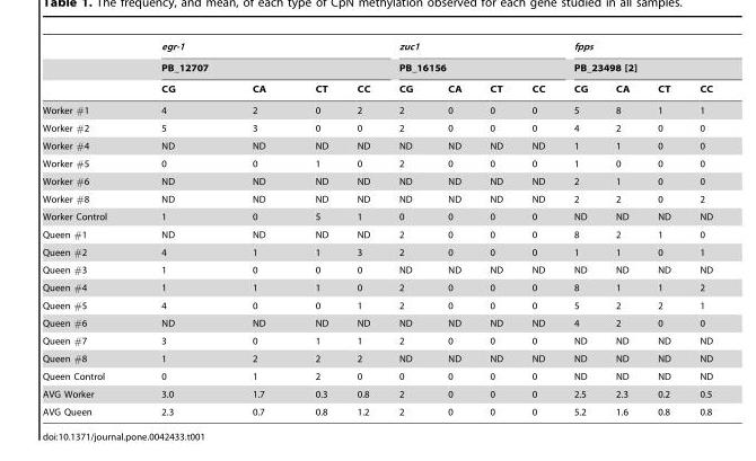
<table><thead><tr><td rowspan="3"></td><td rowspan="2" colspan="4">egr-1 PB_12707</td><td rowspan="2" colspan="4">zuc1 PB_16156</td><td rowspan="2" colspan="4">fpps PB_23498 [2]</td></tr><tr></tr><tr><td>CG</td><td>CA</td><td>CT</td><td>CC</td><td>CG</td><td>CA</td><td>CT</td><td>CC</td><td>CG</td><td>CA</td><td>CT</td><td>CC</td></tr></thead><tbody><tr><td>Worker #1</td><td>4</td><td>2</td><td>0</td><td>2</td><td>2</td><td>0</td><td>0</td><td>0</td><td>5</td><td>8</td><td>1</td><td>1</td></tr><tr><td>Worker #2</td><td>5</td><td>3</td><td>0</td><td>0</td><td>2</td><td>0</td><td>0</td><td>0</td><td>4</td><td>2</td><td>0</td><td>0</td></tr><tr><td>Worker #4</td><td>ND</td><td>ND</td><td>ND</td><td>ND</td><td>ND</td><td>ND</td><td>ND</td><td>ND</td><td>1</td><td>1</td><td>0</td><td>0</td></tr><tr><td>Worker #5</td><td>0</td><td>0</td><td>1</td><td>0</td><td>2</td><td>0</td><td>0</td><td>0</td><td>1</td><td>0</td><td>0</td><td>0</td></tr><tr><td>Worker #6</td><td>ND</td><td>ND</td><td>ND</td><td>ND</td><td>ND</td><td>ND</td><td>ND</td><td>ND</td><td>2</td><td>1</td><td>0</td><td>0</td></tr><tr><td>Worker #8</td><td>ND</td><td>ND</td><td>ND</td><td>ND</td><td>ND</td><td>ND</td><td>ND</td><td>ND</td><td>2</td><td>2</td><td>0</td><td>2</td></tr><tr><td>Worker Control</td><td>1</td><td>0</td><td>5</td><td>1</td><td>0</td><td>0</td><td>0</td><td>0</td><td>ND</td><td>ND</td><td>ND</td><td>ND</td></tr><tr><td>Queen #1</td><td>ND</td><td>ND</td><td>ND</td><td>ND</td><td>2</td><td>0</td><td>0</td><td>0</td><td>8</td><td>2</td><td>1</td><td>0</td></tr><tr><td>Queen #2</td><td>4</td><td>1</td><td>1</td><td>3</td><td>2</td><td>0</td><td>0</td><td>0</td><td>1</td><td>1</td><td>0</td><td>1</td></tr><tr><td>Queen #3</td><td>1</td><td>0</td><td>0</td><td>0</td><td>ND</td><td>ND</td><td>ND</td><td>ND</td><td>ND</td><td>ND</td><td>ND</td><td>ND</td></tr><tr><td>Queen #4</td><td>1</td><td>1</td><td>1</td><td>0</td><td>2</td><td>0</td><td>0</td><td>0</td><td>8</td><td>1</td><td>1</td><td>2</td></tr><tr><td>Queen #5</td><td>4</td><td>0</td><td>0</td><td>1</td><td>2</td><td>0</td><td>0</td><td>0</td><td>5</td><td>2</td><td>2</td><td>1</td></tr><tr><td>Queen #6</td><td>ND</td><td>ND</td><td>ND</td><td>ND</td><td>ND</td><td>ND</td><td>ND</td><td>ND</td><td>4</td><td>2</td><td>0</td><td>0</td></tr><tr><td>Queen #7</td><td>3</td><td>0</td><td>1</td><td>1</td><td>2</td><td>0</td><td>0</td><td>0</td><td>ND</td><td>ND</td><td>ND</td><td>ND</td></tr><tr><td>Queen #8</td><td>1</td><td>2</td><td>2</td><td>2</td><td>ND</td><td>ND</td><td>ND</td><td>ND</td><td>ND</td><td>ND</td><td>ND</td><td>ND</td></tr><tr><td>Queen Control</td><td>0</td><td>1</td><td>2</td><td>0</td><td>0</td><td>0</td><td>0</td><td>0</td><td>ND</td><td>ND</td><td>ND</td><td>ND</td></tr><tr><td>AVG Worker</td><td>3.0</td><td>1.7</td><td>0.3</td><td>0.8</td><td>2</td><td>0</td><td>0</td><td>0</td><td>2.5</td><td>2.3</td><td>0.2</td><td>0.5</td></tr><tr><td>AVG Queen</td><td>2.3</td><td>0.7</td><td>0.8</td><td>1.2</td><td>2</td><td>0</td><td>0</td><td>0</td><td>5.2</td><td>1.6</td><td>0.8</td><td>0.8</td></tr></tbody></table>